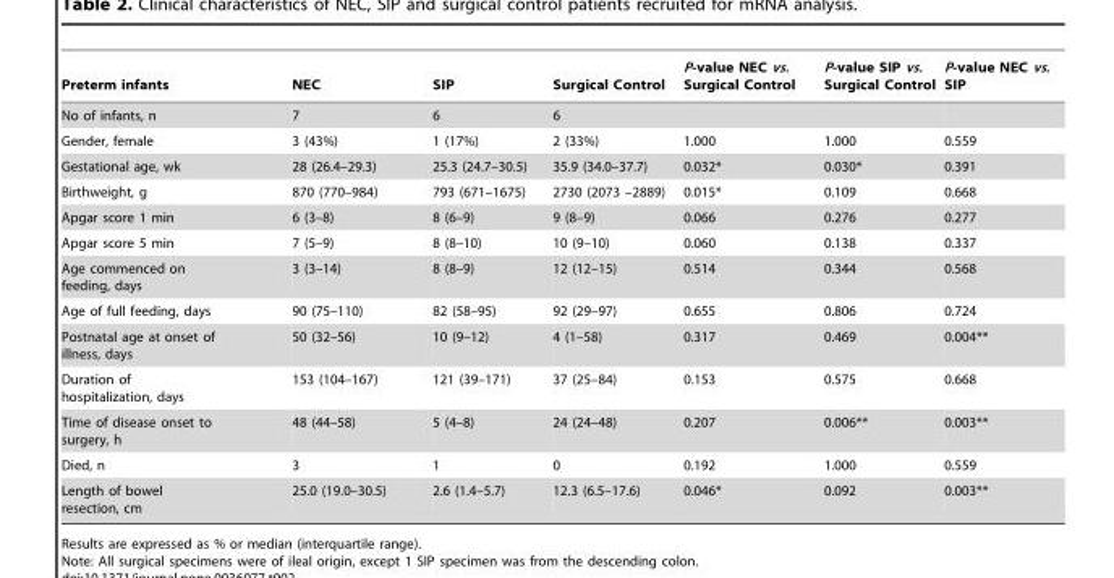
<table><thead><tr><td>Preterm infants</td><td>NEC</td><td>SIP</td><td>Surgical Control</td><td>P-value NEC vs. Surgical Control</td><td>P-value SIP vs. Surgical Control</td><td>P-value NEC vs. SIP</td></tr></thead><tbody><tr><td>No of infants, n</td><td>7</td><td>6</td><td>6</td><td></td><td></td><td></td></tr><tr><td>Gender, female</td><td>3 (43%)</td><td>1 (17%)</td><td>2 (33%)</td><td>1.000</td><td>1.000</td><td>0.559</td></tr><tr><td>Gestational age, wk</td><td>28 (26.4–29.3)</td><td>25.3 (24.7–30.5)</td><td>35.9 (34.0–37.7)</td><td>0.032*</td><td>0.030*</td><td>0.391</td></tr><tr><td>Birthweight, g</td><td>870 (770–984)</td><td>793 (671–1675)</td><td>2730 (2073 –2889)</td><td>0.015*</td><td>0.109</td><td>0.668</td></tr><tr><td>Apgar score 1 min</td><td>6 (3–8)</td><td>8 (6–9)</td><td>9 (8–9)</td><td>0.066</td><td>0.276</td><td>0.277</td></tr><tr><td>Apgar score 5 min</td><td>7 (5–9)</td><td>8 (8–10)</td><td>10 (9–10)</td><td>0.060</td><td>0.138</td><td>0.337</td></tr><tr><td>Age commenced on feeding, days</td><td>3 (3–14)</td><td>8 (8–9)</td><td>12 (12–15)</td><td>0.514</td><td>0.344</td><td>0.568</td></tr><tr><td>Age of full feeding, days</td><td>90 (75–110)</td><td>82 (58–95)</td><td>92 (29–97)</td><td>0.655</td><td>0.806</td><td>0.724</td></tr><tr><td>Postnatal age at onset of illness, days</td><td>50 (32–56)</td><td>10 (9–12)</td><td>4 (1–58)</td><td>0.317</td><td>0.469</td><td>0.004**</td></tr><tr><td>Duration of hospitalization, days</td><td>153 (104–167)</td><td>121 (39–171)</td><td>37 (25–84)</td><td>0.153</td><td>0.575</td><td>0.668</td></tr><tr><td>Time of disease onset to surgery, h</td><td>48 (44–58)</td><td>5 (4–8)</td><td>24 (24–48)</td><td>0.207</td><td>0.006**</td><td>0.003**</td></tr><tr><td>Died, n</td><td>3</td><td>1</td><td>0</td><td>0.192</td><td>1.000</td><td>0.559</td></tr><tr><td>Length of bowel resection, cm</td><td>25.0 (19.0–30.5)</td><td>2.6 (1.4–5.7)</td><td>12.3 (6.5–17.6)</td><td>0.046*</td><td>0.092</td><td>0.003**</td></tr></tbody></table>